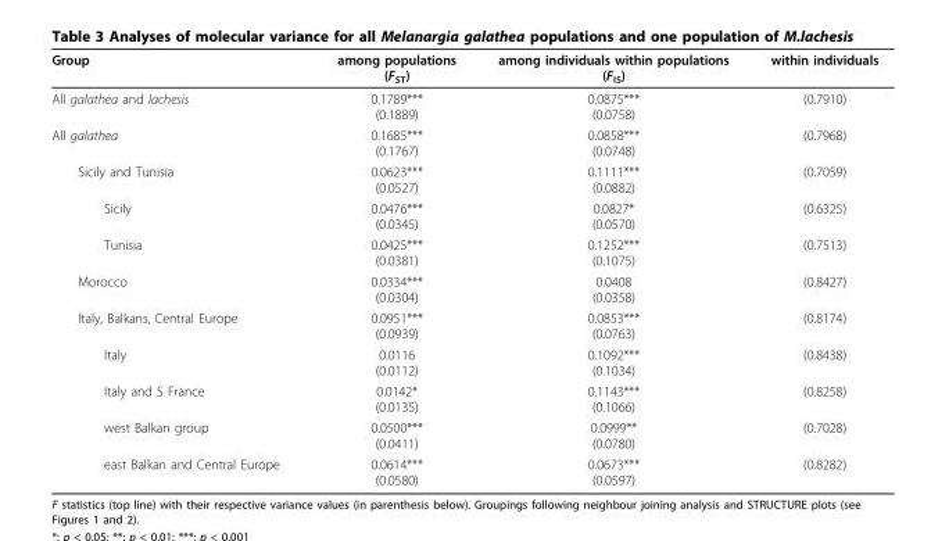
<table><thead><tr><td>Group</td><td>among populations (F<sub>ST</sub>)</td><td>among individuals within populations (F<sub>IS</sub>)</td><td>within individuals</td></tr></thead><tbody><tr><td>All galathea and lachesis</td><td>0.1789*** (0.1889)</td><td>0.0875*** (0.0758)</td><td>(0.7910)</td></tr><tr><td>All galathea</td><td>0.1685*** (0.1767)</td><td>0.0858*** (0.0748)</td><td>(0.7968)</td></tr><tr><td>Sicily and Tunisia</td><td>0.0623*** (0.0527)</td><td>0.1111*** (0.0882)</td><td>(0.7059)</td></tr><tr><td>Sicily</td><td>0.0476*** (0.0345)</td><td>0.0827* (0.0570)</td><td>(0.6325)</td></tr><tr><td>Tunisia</td><td>0.0425*** (0.0381)</td><td>0.1252*** (0.1075)</td><td>(0.7513)</td></tr><tr><td>Morocco</td><td>0.0334*** (0.0304)</td><td>0.0408 (0.0358)</td><td>(0.8427)</td></tr><tr><td>Italy, Balkans, Central Europe</td><td>0.0951*** (0.0939)</td><td>0.0853*** (0.0763)</td><td>(0.8174)</td></tr><tr><td>Italy</td><td>0.0116 (0.0112)</td><td>0.1092*** (0.1034)</td><td>(0.8438)</td></tr><tr><td>Italy and S France</td><td>0.0142* (0.0135)</td><td>0.1143*** (0.1066)</td><td>(0.8258)</td></tr><tr><td>west Balkan group</td><td>0.0500*** (0.0411)</td><td>0.0999** (0.0780)</td><td>(0.7028)</td></tr><tr><td>east Balkan and Central Europe</td><td>0.0614*** (0.0580)</td><td>0.0673*** (0.0597)</td><td>(0.8282)</td></tr></tbody></table>